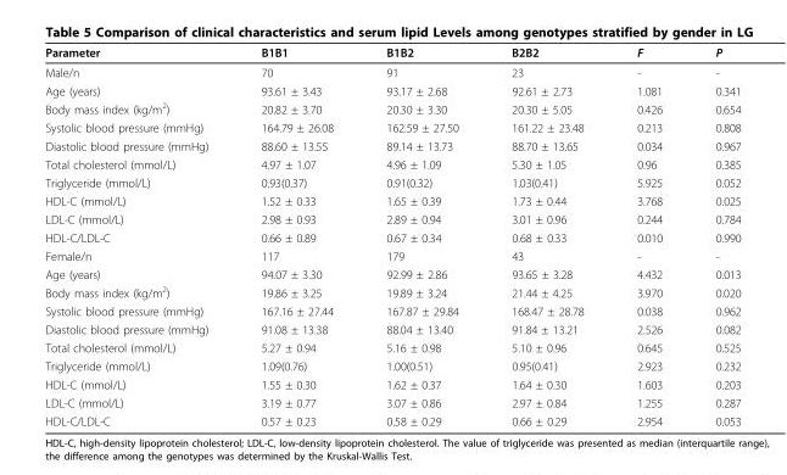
<table><thead><tr><td>Parameter</td><td>B1B1</td><td>B1B2</td><td>B2B2</td><td>F</td><td>P</td></tr></thead><tbody><tr><td>Male/n</td><td>70</td><td>91</td><td>23</td><td>-</td><td>-</td></tr><tr><td>Age (years)</td><td>93.61 ± 3.43</td><td>93.17 ± 2.68</td><td>92.61 ± 2.73</td><td>1.081</td><td>0.341</td></tr><tr><td>Body mass index (kg/m<sup>2</sup>)</td><td>20.82 ± 3.70</td><td>20.30 ± 3.30</td><td>20.30 ± 5.05</td><td>0.426</td><td>0.654</td></tr><tr><td>Systolic blood pressure (mmHg)</td><td>164.79 ± 26.08</td><td>162.59 ± 27.50</td><td>161.22 ± 23.48</td><td>0.213</td><td>0.808</td></tr><tr><td>Diastolic blood pressure (mmHg)</td><td>88.60 ± 13.55</td><td>89.14 ± 13.73</td><td>88.70 ± 13.65</td><td>0.034</td><td>0.967</td></tr><tr><td>Total cholesterol (mmol/L)</td><td>4.97 ± 1.07</td><td>4.96 ± 1.09</td><td>5.30 ± 1.05</td><td>0.96</td><td>0.385</td></tr><tr><td>Triglyceride (mmol/L)</td><td>0.93(0.37)</td><td>0.91(0.32)</td><td>1.03(0.41)</td><td>5.925</td><td>0.052</td></tr><tr><td>HDL-C (mmol/L)</td><td>1.52 ± 0.33</td><td>1.65 ± 0.39</td><td>1.73 ± 0.44</td><td>3.768</td><td>0.025</td></tr><tr><td>LDL-C (mmol/L)</td><td>2.98 ± 0.93</td><td>2.89 ± 0.94</td><td>3.01 ± 0.96</td><td>0.244</td><td>0.784</td></tr><tr><td>HDL-C/LDL-C</td><td>0.66 ± 0.89</td><td>0.67 ± 0.34</td><td>0.68 ± 0.33</td><td>0.010</td><td>0.990</td></tr><tr><td>Female/n</td><td>117</td><td>179</td><td>43</td><td>-</td><td>-</td></tr><tr><td>Age (years)</td><td>94.07 ± 3.30</td><td>92.99 ± 2.86</td><td>93.65 ± 3.28</td><td>4.432</td><td>0.013</td></tr><tr><td>Body mass index (kg/m<sup>2</sup>)</td><td>19.86 ± 3.25</td><td>19.89 ± 3.24</td><td>21.44 ± 4.25</td><td>3.970</td><td>0.020</td></tr><tr><td>Systolic blood pressure (mmHg)</td><td>167.16 ± 27.44</td><td>167.87 ± 29.84</td><td>168.47 ± 28.78</td><td>0.038</td><td>0.962</td></tr><tr><td>Diastolic blood pressure (mmHg)</td><td>91.08 ± 13.38</td><td>88.04 ± 13.40</td><td>91.84 ± 13.21</td><td>2.526</td><td>0.082</td></tr><tr><td>Total cholesterol (mmol/L)</td><td>5.27 ± 0.94</td><td>5.16 ± 0.98</td><td>5.10 ± 0.96</td><td>0.645</td><td>0.525</td></tr><tr><td>Triglyceride (mmol/L)</td><td>1.09(0.76)</td><td>1.00(0.51)</td><td>0.95(0.41)</td><td>2.923</td><td>0.232</td></tr><tr><td>HDL-C (mmol/L)</td><td>1.55 ± 0.30</td><td>1.62 ± 0.37</td><td>1.64 ± 0.30</td><td>1.603</td><td>0.203</td></tr><tr><td>LDL-C (mmol/L)</td><td>3.19 ± 0.77</td><td>3.07 ± 0.86</td><td>2.97 ± 0.84</td><td>1.255</td><td>0.287</td></tr><tr><td>HDL-C/LDL-C</td><td>0.57 ± 0.23</td><td>0.58 ± 0.29</td><td>0.66 ± 0.29</td><td>2.954</td><td>0.053</td></tr></tbody></table>